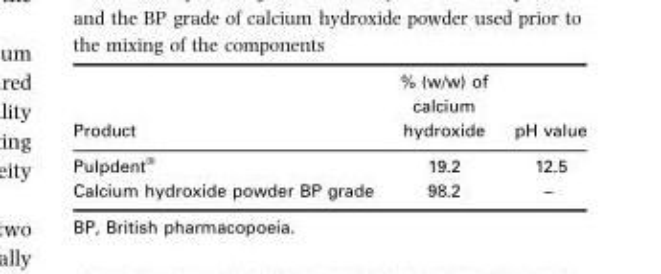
<table><thead><tr><td>Product</td><td>% (w/w) of calcium hydroxide</td><td>pH value</td></tr></thead><tbody><tr><td>Pulpdent®</td><td>19.2</td><td>12.5</td></tr><tr><td>Calcium hydroxide powder BP grade</td><td>98.2</td><td>–</td></tr></tbody></table>